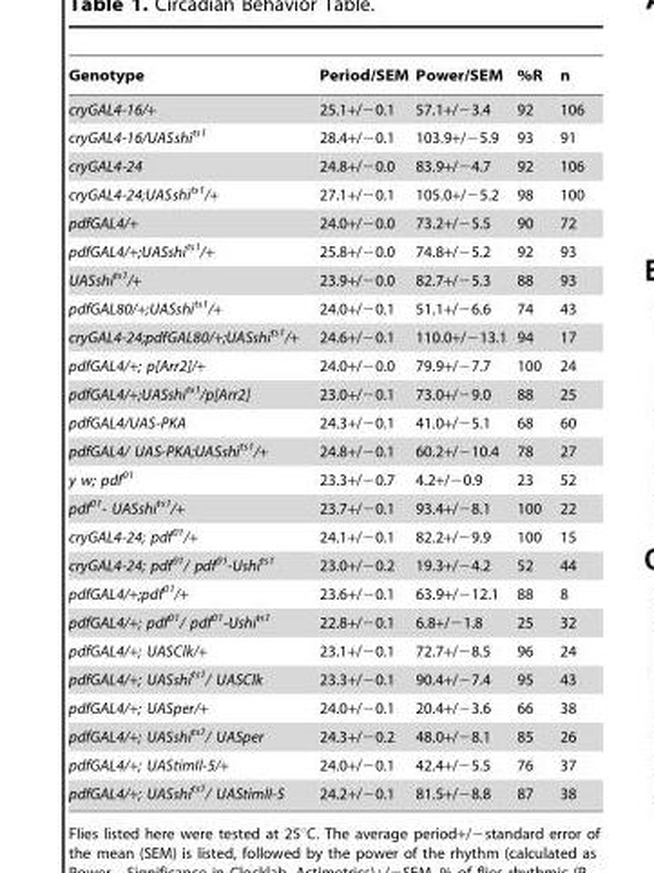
<table><thead><tr><td>Genotype</td><td>Period/SEM</td><td>Power/SEM</td><td>%R</td><td>n</td></tr></thead><tbody><tr><td>cryGAL4-16/+</td><td>25.1+/−0.1</td><td>57.1+/−3.4</td><td>92</td><td>106</td></tr><tr><td>cryGAL4-16/UASshi<sup>ts1</sup></td><td>28.4+/−0.1</td><td>103.9+/−5.9</td><td>93</td><td>91</td></tr><tr><td>cryGAL4-24</td><td>24.8+/−0.0</td><td>83.9+/−4.7</td><td>92</td><td>106</td></tr><tr><td>cryGAL4-24;UASshi<sup>ts1</sup>/+</td><td>27.1+/−0.1</td><td>105.0+/−5.2</td><td>98</td><td>100</td></tr><tr><td>pdfGAL4/+</td><td>24.0+/−0.0</td><td>73.2+/−5.5</td><td>90</td><td>72</td></tr><tr><td>pdfGAL4/+;UASshi<sup>ts1</sup>/+</td><td>25.8+/−0.0</td><td>74.8+/−5.2</td><td>92</td><td>93</td></tr><tr><td>UASshi<sup>ts1</sup>/+</td><td>23.9+/−0.0</td><td>82.7+/−5.3</td><td>88</td><td>93</td></tr><tr><td>pdfGAL80/+;UASshi<sup>ts1</sup>/+</td><td>24.0+/−0.1</td><td>51.1+/−6.6</td><td>74</td><td>43</td></tr><tr><td>cryGAL4-24;pdfGAL80/+;UASshi<sup>ts1</sup>/+</td><td>24.6+/−0.1</td><td>110.0+/−13.1</td><td>94</td><td>17</td></tr><tr><td>pdfGAL4/+; p[Arr2]/+</td><td>24.0+/−0.0</td><td>79.9+/−7.7</td><td>100</td><td>24</td></tr><tr><td>pdfGAL4/+;UASshi<sup>ts1</sup>/p[Arr2]</td><td>23.0+/−0.1</td><td>73.0+/−9.0</td><td>88</td><td>25</td></tr><tr><td>pdfGAL4/UAS-PKA</td><td>24.3+/−0.1</td><td>41.0+/−5.1</td><td>68</td><td>60</td></tr><tr><td>pdfGAL4/ UAS-PKA;UASshi<sup>ts1</sup>/+</td><td>24.8+/−0.1</td><td>60.2+/−10.4</td><td>78</td><td>27</td></tr><tr><td>y w; pdf<sup>01</sup></td><td>23.3+/−0.7</td><td>4.2+/−0.9</td><td>23</td><td>52</td></tr><tr><td>pdf<sup>01</sup>- UASshi<sup>ts1</sup>/+</td><td>23.7+/−0.1</td><td>93.4+/−8.1</td><td>100</td><td>22</td></tr><tr><td>cryGAL4-24; pdf<sup>01</sup>/+</td><td>24.1+/−0.1</td><td>82.2+/−9.9</td><td>100</td><td>15</td></tr><tr><td>cryGAL4-24; pdf<sup>01</sup>/ pdf<sup>01</sup>-Ushi<sup>ts1</sup></td><td>23.0+/−0.2</td><td>19.3+/−4.2</td><td>52</td><td>44</td></tr><tr><td>pdfGAL4/+;pdf<sup>01</sup>/+</td><td>23.6+/−0.1</td><td>63.9+/−12.1</td><td>88</td><td>8</td></tr><tr><td>pdfGAL4/+; pdf<sup>01</sup>/ pdf<sup>01</sup>-Ushi<sup>ts1</sup></td><td>22.8+/−0.1</td><td>6.8+/−1.8</td><td>25</td><td>32</td></tr><tr><td>pdfGAL4/+; UASClk/+</td><td>23.1+/−0.1</td><td>72.7+/−8.5</td><td>96</td><td>24</td></tr><tr><td>pdfGAL4/+; UASshi<sup>ts1</sup>/ UASClk</td><td>23.3+/−0.1</td><td>90.4+/−7.4</td><td>95</td><td>43</td></tr><tr><td>pdfGAL4/+; UASper/+</td><td>24.0+/−0.1</td><td>20.4+/−3.6</td><td>66</td><td>38</td></tr><tr><td>pdfGAL4/+; UASshi<sup>ts1</sup>/ UASper</td><td>24.3+/−0.2</td><td>48.0+/−8.1</td><td>85</td><td>26</td></tr><tr><td>pdfGAL4/+; UAStimII-5/+</td><td>24.0+/−0.1</td><td>42.4+/−5.5</td><td>76</td><td>37</td></tr><tr><td>pdfGAL4/+; UASshi<sup>ts1</sup>/ UAStimII-5</td><td>24.2+/−0.1</td><td>81.5+/−8.8</td><td>87</td><td>38</td></tr></tbody></table>